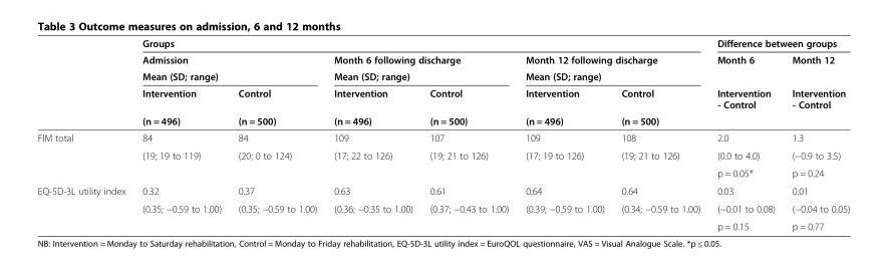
<table><thead><tr><td rowspan="5"></td><td colspan="6">Groups</td><td colspan="2">Difference between groups</td></tr><tr><td rowspan="2" colspan="2">Admission Mean (SD; range)</td><td rowspan="2" colspan="2">Month 6 following discharge Mean (SD; range)</td><td rowspan="2" colspan="2">Month 12 following discharge Mean (SD; range)</td><td rowspan="4">Month 6 Intervention - Control</td><td rowspan="4">Month 12 Intervention - Control</td></tr><tr></tr><tr><td rowspan="2">Intervention (n = 496)</td><td rowspan="2">Control (n = 500)</td><td rowspan="2">Intervention (n = 496)</td><td rowspan="2">Control (n = 500)</td><td rowspan="2">Intervention (n = 496)</td><td rowspan="2">Control (n = 500)</td></tr><tr></tr></thead><tbody><tr><td rowspan="3">FIM total</td><td>84</td><td>84</td><td>109</td><td>107</td><td>109</td><td>108</td><td>2.0</td><td>1.3</td></tr><tr><td rowspan="2">(19; 19 to 119)</td><td rowspan="2">(20; 0 to 124)</td><td rowspan="2">(17; 22 to 126)</td><td rowspan="2">(19; 21 to 126)</td><td rowspan="2">(17; 19 to 126)</td><td rowspan="2">(19; 21 to 126)</td><td>(0.0 to 4.0)</td><td>(−0.9 to 3.5)</td></tr><tr><td>p = 0.05*</td><td>p = 0.24</td></tr><tr><td rowspan="3">EQ-5D-3L utility index</td><td>0.32</td><td>0.37</td><td>0.63</td><td>0.61</td><td>0.64</td><td>0.64</td><td>0.03</td><td>0.01</td></tr><tr><td rowspan="2">(0.35; −0.59 to 1.00)</td><td rowspan="2">(0.35; −0.59 to 1.00)</td><td rowspan="2">(0.36; −0.35 to 1.00)</td><td rowspan="2">(0.37; −0.43 to 1.00)</td><td rowspan="2">(0.39; −0.59 to 1.00)</td><td rowspan="2">(0.34; −0.59 to 1.00)</td><td>(−0.01 to 0.08)</td><td>(−0.04 to 0.05)</td></tr><tr><td>p = 0.15</td><td>p = 0.77</td></tr></tbody></table>